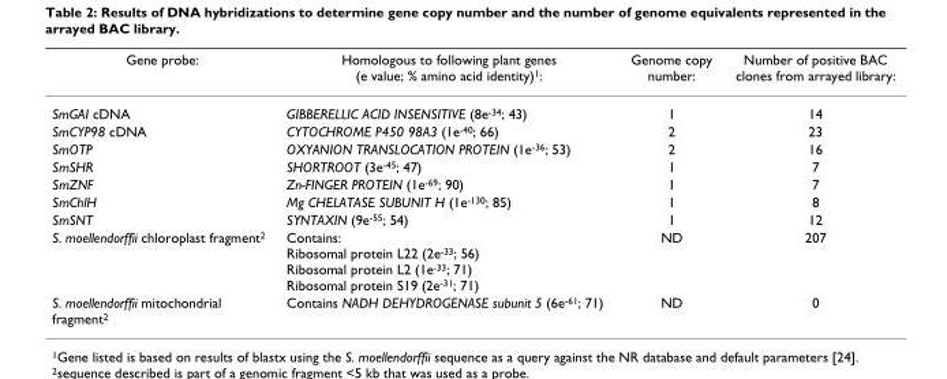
<table><thead><tr><td>Gene probe:</td><td>Homologous to following plant genes (e value; % amino acid identity)1:</td><td>Genome copy number:</td><td>Number of positive BAC clones from arrayed library:</td></tr></thead><tbody><tr><td>SmGAI cDNA</td><td>GIBBERELLIC ACID INSENSITIVE (8e-34; 43)</td><td>1</td><td>14</td></tr><tr><td>SmCYP98 cDNA</td><td>CYTOCHROME P450 98A3 (1e-40; 66)</td><td>2</td><td>23</td></tr><tr><td>SmOTP</td><td>OXYANION TRANSLOCATION PROTEIN (1e-36; 53)</td><td>2</td><td>16</td></tr><tr><td>SmSHR</td><td>SHORTROOT (3e-45; 47)</td><td>1</td><td>7</td></tr><tr><td>SmZNF</td><td>Zn-FINGER PROTEIN (1e-69; 90)</td><td>1</td><td>7</td></tr><tr><td>SmChlH</td><td>Mg CHELATASE SUBUNIT H (1e-130; 85)</td><td>1</td><td>8</td></tr><tr><td>SmSNT</td><td>SYNTAXIN (9e-55; 54)</td><td>1</td><td>12</td></tr><tr><td>S. moellendorffii chloroplast fragment2</td><td>Contains: Ribosomal protein L22 (2e-33; 56) Ribosomal protein L2 (1e-33; 71) Ribosomal protein S19 (2e-31; 71)</td><td>ND</td><td>207</td></tr><tr><td>S. moellendorffii mitochondrial fragment2</td><td>Contains NADH DEHYDROGENASE subunit 5 (6e-61; 71)</td><td>ND</td><td>0</td></tr></tbody></table>